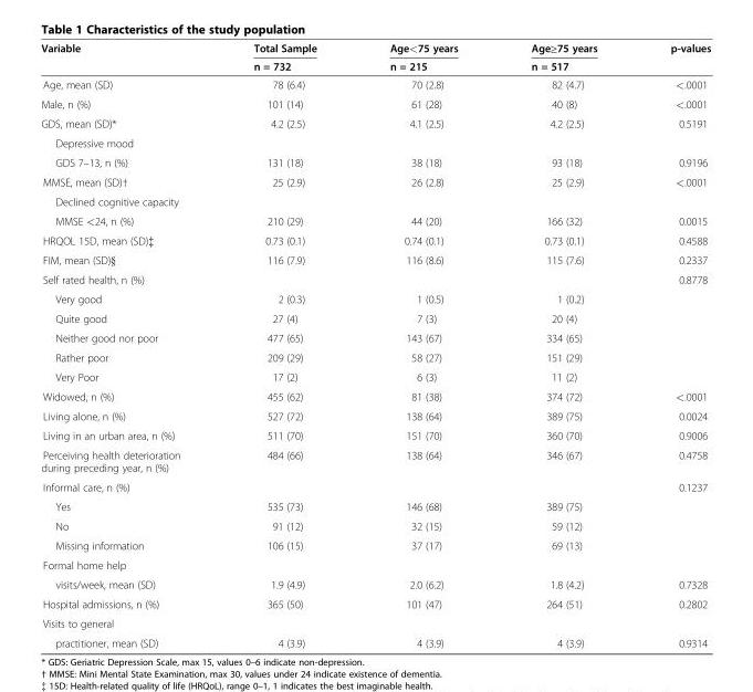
<table><thead><tr><td rowspan="2">Variable</td><td rowspan="2">Total Sample n = 732</td><td rowspan="2">Age&lt;75 years n = 215</td><td rowspan="2">Age≥75 years n = 517</td><td rowspan="2">p-values</td></tr><tr></tr></thead><tbody><tr><td>Age, mean (SD)</td><td>78 (6.4)</td><td>70 (2.8)</td><td>82 (4.7)</td><td>&lt;.0001</td></tr><tr><td>Male, n (%)</td><td>101 (14)</td><td>61 (28)</td><td>40 (8)</td><td>&lt;.0001</td></tr><tr><td>GDS, mean (SD)*</td><td>4.2 (2.5)</td><td>4.1 (2.5)</td><td>4.2 (2.5)</td><td>0.5191</td></tr><tr><td colspan="5">Depressive mood</td></tr><tr><td>GDS 7–13, n (%)</td><td>131 (18)</td><td>38 (18)</td><td>93 (18)</td><td>0.9196</td></tr><tr><td>MMSE, mean (SD)†</td><td>25 (2.9)</td><td>26 (2.8)</td><td>25 (2.9)</td><td>&lt;.0001</td></tr><tr><td colspan="5">Declined cognitive capacity</td></tr><tr><td>MMSE &lt;24, n (%)</td><td>210 (29)</td><td>44 (20)</td><td>166 (32)</td><td>0.0015</td></tr><tr><td>HRQOL 15D, mean (SD)‡</td><td>0.73 (0.1)</td><td>0.74 (0.1)</td><td>0.73 (0.1)</td><td>0.4588</td></tr><tr><td>FIM, mean (SD)§</td><td>116 (7.9)</td><td>116 (8.6)</td><td>115 (7.6)</td><td>0.2337</td></tr><tr><td>Self rated health, n (%)</td><td></td><td></td><td></td><td>0.8778</td></tr><tr><td>Very good</td><td>2 (0.3)</td><td>1 (0.5)</td><td>1 (0.2)</td><td></td></tr><tr><td>Quite good</td><td>27 (4)</td><td>7 (3)</td><td>20 (4)</td><td></td></tr><tr><td>Neither good nor poor</td><td>477 (65)</td><td>143 (67)</td><td>334 (65)</td><td></td></tr><tr><td>Rather poor</td><td>209 (29)</td><td>58 (27)</td><td>151 (29)</td><td></td></tr><tr><td>Very Poor</td><td>17 (2)</td><td>6 (3)</td><td>11 (2)</td><td></td></tr><tr><td>Widowed, n (%)</td><td>455 (62)</td><td>81 (38)</td><td>374 (72)</td><td>&lt;.0001</td></tr><tr><td>Living alone, n (%)</td><td>527 (72)</td><td>138 (64)</td><td>389 (75)</td><td>0.0024</td></tr><tr><td>Living in an urban area, n (%)</td><td>511 (70)</td><td>151 (70)</td><td>360 (70)</td><td>0.9006</td></tr><tr><td>Perceiving health deterioration during preceding year, n (%)</td><td>484 (66)</td><td>138 (64)</td><td>346 (67)</td><td>0.4758</td></tr><tr><td>Informal care, n (%)</td><td></td><td></td><td></td><td>0.1237</td></tr><tr><td>Yes</td><td>535 (73)</td><td>146 (68)</td><td>389 (75)</td><td></td></tr><tr><td>No</td><td>91 (12)</td><td>32 (15)</td><td>59 (12)</td><td></td></tr><tr><td>Missing information</td><td>106 (15)</td><td>37 (17)</td><td>69 (13)</td><td></td></tr><tr><td colspan="5">Formal home help</td></tr><tr><td>visits/week, mean (SD)</td><td>1.9 (4.9)</td><td>2.0 (6.2)</td><td>1.8 (4.2)</td><td>0.7328</td></tr><tr><td>Hospital admissions, n (%)</td><td>365 (50)</td><td>101 (47)</td><td>264 (51)</td><td>0.2802</td></tr><tr><td colspan="5">Visits to general</td></tr><tr><td>practitioner, mean (SD)</td><td>4 (3.9)</td><td>4 (3.9)</td><td>4 (3.9)</td><td>0.9314</td></tr></tbody></table>